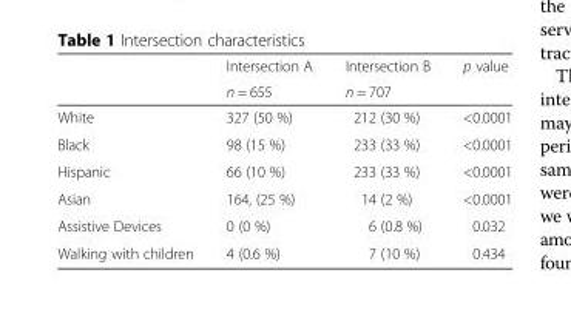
<table><thead><tr><td rowspan="2"></td><td rowspan="2">Intersection A n = 655</td><td rowspan="2">Intersection B n = 707</td><td rowspan="2">p value</td></tr><tr></tr></thead><tbody><tr><td>White</td><td>327 (50 %)</td><td>212 (30 %)</td><td>&lt;0.0001</td></tr><tr><td>Black</td><td>98 (15 %)</td><td>233 (33 %)</td><td>&lt;0.0001</td></tr><tr><td>Hispanic</td><td>66 (10 %)</td><td>233 (33 %)</td><td>&lt;0.0001</td></tr><tr><td>Asian</td><td>164, (25 %)</td><td>14 (2 %)</td><td>&lt;0.0001</td></tr><tr><td>Assistive Devices</td><td>0 (0 %)</td><td>6 (0.8 %)</td><td>0.032</td></tr><tr><td>Walking with children</td><td>4 (0.6 %)</td><td>7 (10 %)</td><td>0.434</td></tr></tbody></table>